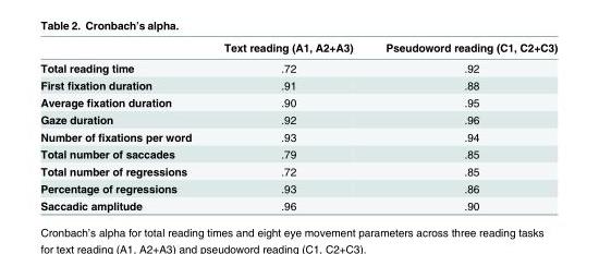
<table><thead><tr><td></td><td>Text reading (A1, A2+A3)</td><td>Pseudoword reading (C1, C2+C3)</td></tr></thead><tbody><tr><td>Total reading time</td><td>.72</td><td>.92</td></tr><tr><td>First fixation duration</td><td>.91</td><td>.88</td></tr><tr><td>Average fixation duration</td><td>.90</td><td>.95</td></tr><tr><td>Gaze duration</td><td>.92</td><td>.96</td></tr><tr><td>Number of fixations per word</td><td>.93</td><td>.94</td></tr><tr><td>Total number of saccades</td><td>.79</td><td>.85</td></tr><tr><td>Total number of regressions</td><td>.72</td><td>.85</td></tr><tr><td>Percentage of regressions</td><td>.93</td><td>.86</td></tr><tr><td>Saccadic amplitude</td><td>.96</td><td>.90</td></tr></tbody></table>